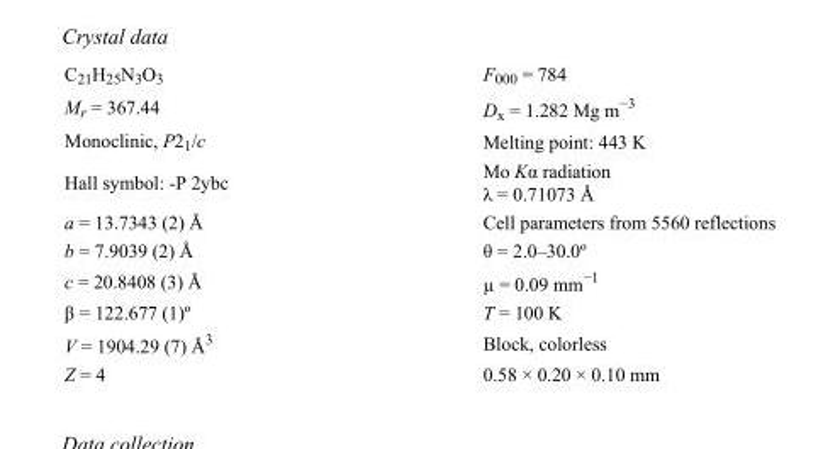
<table><tbody><tr><td>C<sub>21</sub>H<sub>25</sub>N<sub>3</sub>O<sub>3</sub></td><td>F000 = 784</td></tr><tr><td>M<sub>r</sub> = 367.44</td><td>D<sub>x</sub> = 1.282 Mg m<sup>−3</sup></td></tr><tr><td>Monoclinic, P2<sub>1</sub>/c</td><td>Melting point: 443 K</td></tr><tr><td>Hall symbol: -P 2ybc</td><td>Mo Kα radiation λ = 0.71073 Å</td></tr><tr><td>a = 13.7343 (2) Å</td><td>Cell parameters from 5560 reflections</td></tr><tr><td>b = 7.9039 (2) Å</td><td>θ = 2.0–30.0º</td></tr><tr><td>c = 20.8408 (3) Å</td><td>µ = 0.09 mm<sup>−1</sup></td></tr><tr><td>β = 122.677 (1)º</td><td>T = 100 K</td></tr><tr><td>V = 1904.29 (7) Å<sup>3</sup></td><td>Block, colorless</td></tr><tr><td>Z = 4</td><td>0.58 × 0.20 × 0.10 mm</td></tr></tbody></table>